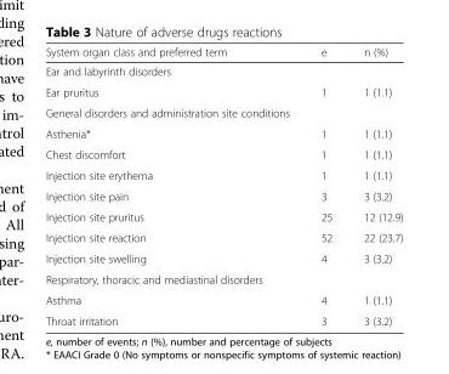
<table><thead><tr><td>System organ class and preferred term</td><td>e</td><td>n (%)</td></tr></thead><tbody><tr><td colspan="3">Ear and labyrinth disorders</td></tr><tr><td>Ear pruritus</td><td>1</td><td>1 (1.1)</td></tr><tr><td colspan="3">General disorders and administration site conditions</td></tr><tr><td>Asthenia*</td><td>1</td><td>1 (1.1)</td></tr><tr><td>Chest discomfort</td><td>1</td><td>1 (1.1)</td></tr><tr><td>Injection site erythema</td><td>1</td><td>1 (1.1)</td></tr><tr><td>Injection site pain</td><td>3</td><td>3 (3.2)</td></tr><tr><td>Injection site pruritus</td><td>25</td><td>12 (12.9)</td></tr><tr><td>Injection site reaction</td><td>52</td><td>22 (23.7)</td></tr><tr><td>Injection site swelling</td><td>4</td><td>3 (3.2)</td></tr><tr><td colspan="3">Respiratory, thoracic and mediastinal disorders</td></tr><tr><td>Asthma</td><td>4</td><td>1 (1.1)</td></tr><tr><td>Throat irritation</td><td>3</td><td>3 (3.2)</td></tr></tbody></table>